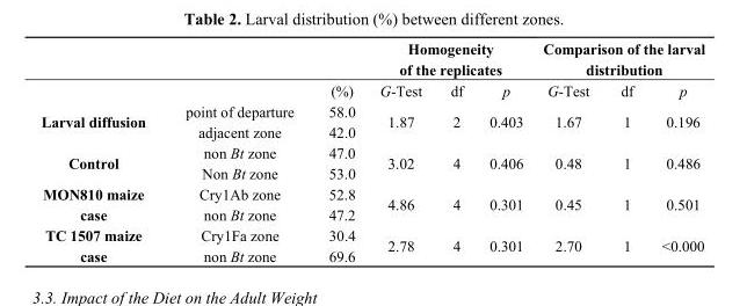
<table><thead><tr><td rowspan="2"></td><td rowspan="2"></td><td rowspan="2">(%)</td><td colspan="3">Homogeneity of the replicates</td><td colspan="3">Comparison of the larval distribution</td></tr><tr><td>G-Test</td><td>df</td><td>p</td><td>G-Test</td><td>df</td><td>p</td></tr></thead><tbody><tr><td rowspan="2">Larval diffusion</td><td>point of departure</td><td>58.0</td><td rowspan="2">1.87</td><td rowspan="2">2</td><td rowspan="2">0.403</td><td rowspan="2">1.67</td><td rowspan="2">1</td><td rowspan="2">0.196</td></tr><tr><td>adjacent zone</td><td>42.0</td></tr><tr><td rowspan="2">Control</td><td>non Bt zone</td><td>47.0</td><td rowspan="2">3.02</td><td rowspan="2">4</td><td rowspan="2">0.406</td><td rowspan="2">0.48</td><td rowspan="2">1</td><td rowspan="2">0.486</td></tr><tr><td>Non Bt zone</td><td>53.0</td></tr><tr><td rowspan="2">MON810 maize case</td><td>Cry1Ab zone</td><td>52.8</td><td rowspan="2">4.86</td><td rowspan="2">4</td><td rowspan="2">0.301</td><td rowspan="2">0.45</td><td rowspan="2">1</td><td rowspan="2">0.501</td></tr><tr><td>non Bt zone</td><td>47.2</td></tr><tr><td rowspan="2">TC 1507 maize case</td><td>Cry1Fa zone</td><td>30.4</td><td rowspan="2">2.78</td><td rowspan="2">4</td><td rowspan="2">0.301</td><td rowspan="2">2.70</td><td rowspan="2">1</td><td rowspan="2">&lt;0.000</td></tr><tr><td>non Bt zone</td><td>69.6</td></tr></tbody></table>